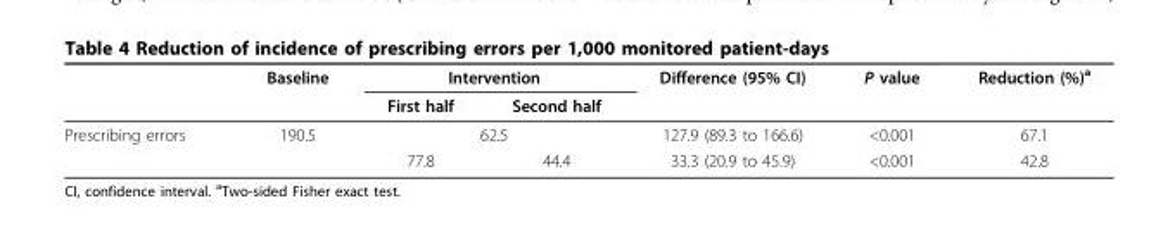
<table><thead><tr><td rowspan="2"></td><td rowspan="2">Baseline</td><td colspan="2">Intervention</td><td rowspan="2">Difference (95% CI)</td><td rowspan="2">P value</td><td rowspan="2">Reduction (%)<sup>a</sup></td></tr><tr><td>First half</td><td>Second half</td></tr></thead><tbody><tr><td rowspan="2">Prescribing errors</td><td>190.5</td><td colspan="2">62.5</td><td>127.9 (89.3 to 166.6)</td><td>&lt;0.001</td><td>67.1</td></tr><tr><td></td><td>77.8</td><td>44.4</td><td>33.3 (20.9 to 45.9)</td><td>&lt;0.001</td><td>42.8</td></tr></tbody></table>